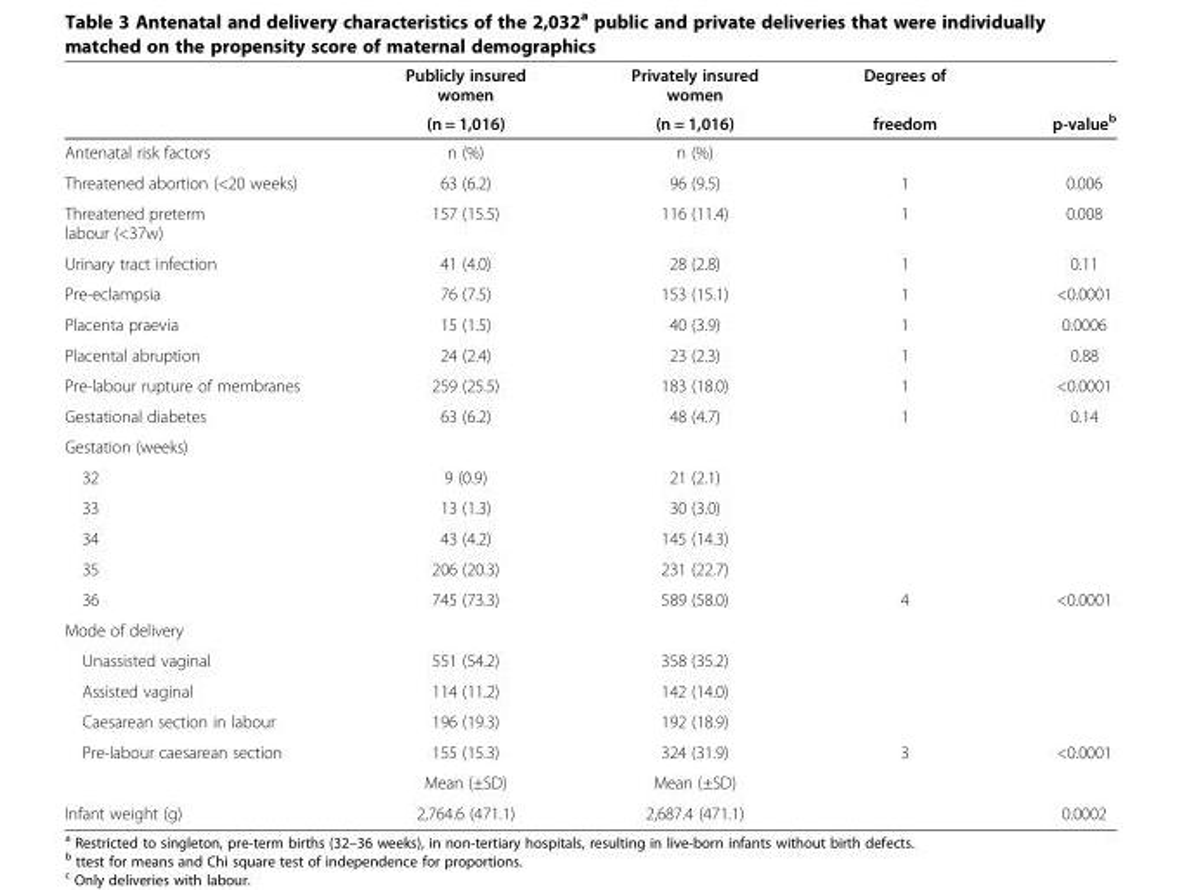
<table><thead><tr><td rowspan="2"></td><td rowspan="2">Publicly insured women (n = 1,016)</td><td rowspan="2">Privately insured women (n = 1,016)</td><td rowspan="2">Degrees of freedom</td><td rowspan="2">p-value<sup>b</sup></td></tr><tr></tr></thead><tbody><tr><td>Antenatal risk factors</td><td>n (%)</td><td>n (%)</td><td></td><td></td></tr><tr><td>Threatened abortion (&lt;20 weeks)</td><td>63 (6.2)</td><td>96 (9.5)</td><td>1</td><td>0.006</td></tr><tr><td>Threatened preterm labour (&lt;37w)</td><td>157 (15.5)</td><td>116 (11.4)</td><td>1</td><td>0.008</td></tr><tr><td>Urinary tract infection</td><td>41 (4.0)</td><td>28 (2.8)</td><td>1</td><td>0.11</td></tr><tr><td>Pre-eclampsia</td><td>76 (7.5)</td><td>153 (15.1)</td><td>1</td><td>&lt;0.0001</td></tr><tr><td>Placenta praevia</td><td>15 (1.5)</td><td>40 (3.9)</td><td>1</td><td>0.0006</td></tr><tr><td>Placental abruption</td><td>24 (2.4)</td><td>23 (2.3)</td><td>1</td><td>0.88</td></tr><tr><td>Pre-labour rupture of membranes</td><td>259 (25.5)</td><td>183 (18.0)</td><td>1</td><td>&lt;0.0001</td></tr><tr><td>Gestational diabetes</td><td>63 (6.2)</td><td>48 (4.7)</td><td>1</td><td>0.14</td></tr><tr><td colspan="5">Gestation (weeks)</td></tr><tr><td>32</td><td>9 (0.9)</td><td>21 (2.1)</td><td></td><td></td></tr><tr><td>33</td><td>13 (1.3)</td><td>30 (3.0)</td><td></td><td></td></tr><tr><td>34</td><td>43 (4.2)</td><td>145 (14.3)</td><td></td><td></td></tr><tr><td>35</td><td>206 (20.3)</td><td>231 (22.7)</td><td></td><td></td></tr><tr><td>36</td><td>745 (73.3)</td><td>589 (58.0)</td><td>4</td><td>&lt;0.0001</td></tr><tr><td colspan="5">Mode of delivery</td></tr><tr><td>Unassisted vaginal</td><td>551 (54.2)</td><td>358 (35.2)</td><td></td><td></td></tr><tr><td>Assisted vaginal</td><td>114 (11.2)</td><td>142 (14.0)</td><td></td><td></td></tr><tr><td>Caesarean section in labour</td><td>196 (19.3)</td><td>192 (18.9)</td><td></td><td></td></tr><tr><td rowspan="2">Pre-labour caesarean section</td><td>155 (15.3)</td><td>324 (31.9)</td><td>3</td><td>&lt;0.0001</td></tr><tr><td>Mean (±SD)</td><td>Mean (±SD)</td><td></td><td></td></tr><tr><td>Infant weight (g)</td><td>2,764.6 (471.1)</td><td>2,687.4 (471.1)</td><td></td><td>0.0002</td></tr></tbody></table>